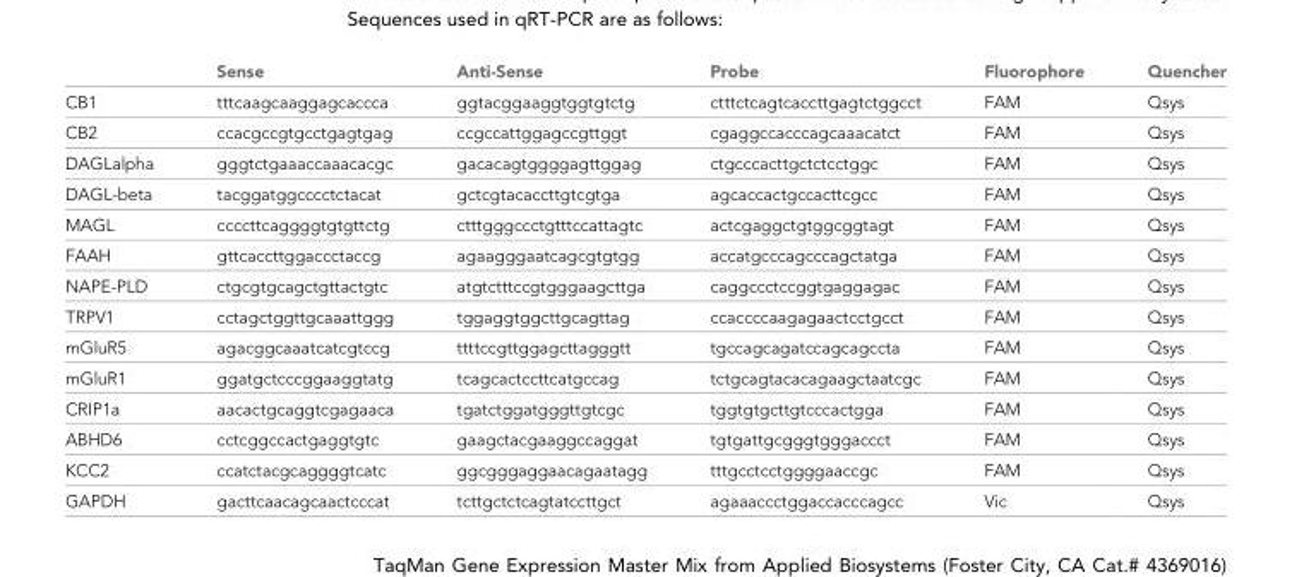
<table><thead><tr><td></td><td>Sense</td><td>Anti-Sense</td><td>Probe</td><td>Fluorophore</td><td>Quencher</td></tr></thead><tbody><tr><td>CB1</td><td>tttcaagcaaggagcaccca</td><td>ggtacggaaggtggtgtctg</td><td>ctttctcagtcaccttgagtctggcct</td><td>FAM</td><td>Qsys</td></tr><tr><td>CB2</td><td>ccacgccgtgcctgagtgag</td><td>ccgccattggagccgttggt</td><td>cgaggccacccagcaaacatct</td><td>FAM</td><td>Qsys</td></tr><tr><td>DAGLalpha</td><td>gggtctgaaaccaaacacgc</td><td>gacacagtggggagttggag</td><td>ctgcccacttgctctcctggc</td><td>FAM</td><td>Qsys</td></tr><tr><td>DAGL-beta</td><td>tacggatggcccctctacat</td><td>gctcgtacaccttgtcgtga</td><td>agcaccactgccacttcgcc</td><td>FAM</td><td>Qsys</td></tr><tr><td>MAGL</td><td>ccccttcaggggtgtgttctg</td><td>ctttgggccctgtttccattagtc</td><td>actcgaggctgtggcggtagt</td><td>FAM</td><td>Qsys</td></tr><tr><td>FAAH</td><td>gttcaccttggaccctaccg</td><td>agaagggaatcagcgtgtgg</td><td>accatgcccagcccagctatga</td><td>FAM</td><td>Qsys</td></tr><tr><td>NAPE-PLD</td><td>ctgcgtgcagctgttactgtc</td><td>atgtctttccgtgggaagcttga</td><td>caggccctccggtgaggagac</td><td>FAM</td><td>Qsys</td></tr><tr><td>TRPV1</td><td>cctagctggttgcaaattggg</td><td>tggaggtggcttgcagttag</td><td>ccaccccaagagaactcctgcct</td><td>FAM</td><td>Qsys</td></tr><tr><td>mGluR5</td><td>agacggcaaatcatcgtccg</td><td>ttttccgttggagcttagggtt</td><td>tgccagcagatccagcagccta</td><td>FAM</td><td>Qsys</td></tr><tr><td>mGluR1</td><td>ggatgctcccggaaggtatg</td><td>tcagcactccttcatgccag</td><td>tctgcagtacacagaagctaatcgc</td><td>FAM</td><td>Qsys</td></tr><tr><td>CRIP1a</td><td>aacactgcaggtcgagaaca</td><td>tgatctggatgggttgtcgc</td><td>tggtgtgcttgtcccactgga</td><td>FAM</td><td>Qsys</td></tr><tr><td>ABHD6</td><td>cctcggccactgaggtgtc</td><td>gaagctacgaaggccaggat</td><td>tgtgattgcgggtgggaccct</td><td>FAM</td><td>Qsys</td></tr><tr><td>KCC2</td><td>ccatctacgcaggggtcatc</td><td>ggcgggaggaacagaatagg</td><td>tttgcctcctggggaaccgc</td><td>FAM</td><td>Qsys</td></tr><tr><td>GAPDH</td><td>gacttcaacagcaactcccat</td><td>tcttgctctcagtatccttgct</td><td>agaaaccctggaccacccagcc</td><td>Vic</td><td>Qsys</td></tr></tbody></table>